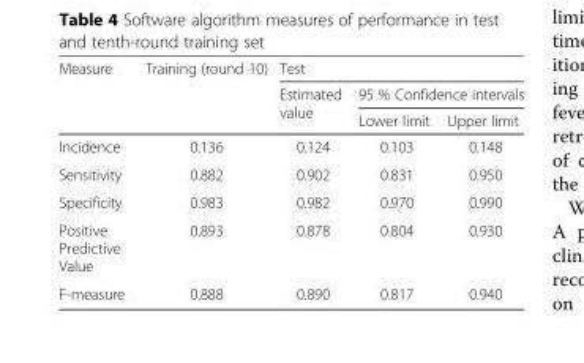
<table><thead><tr><td rowspan="3">Measure</td><td rowspan="3">Training (round 10)</td><td colspan="3">Test</td></tr><tr><td rowspan="2">Estimated value</td><td colspan="2">95 % Confidence intervals</td></tr><tr><td>Lower limit</td><td>Upper limit</td></tr></thead><tbody><tr><td>Incidence</td><td>0.136</td><td>0.124</td><td>0.103</td><td>0.148</td></tr><tr><td>Sensitivity</td><td>0.882</td><td>0.902</td><td>0.831</td><td>0.950</td></tr><tr><td>Specificity</td><td>0.983</td><td>0.982</td><td>0.970</td><td>0.990</td></tr><tr><td>Positive Predictive Value</td><td>0.893</td><td>0.878</td><td>0.804</td><td>0.930</td></tr><tr><td>F-measure</td><td>0.888</td><td>0.890</td><td>0.817</td><td>0.940</td></tr></tbody></table>